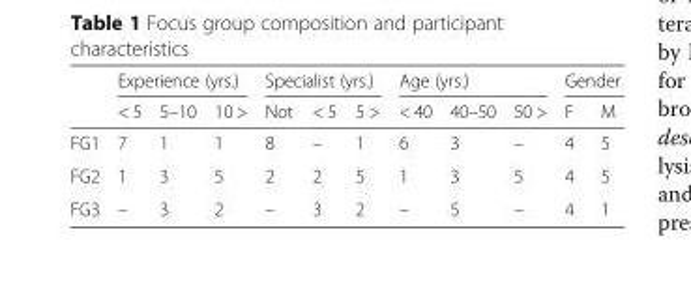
<table><thead><tr><td rowspan="2"></td><td colspan="3">Experience (yrs.)</td><td colspan="3">Specialist (yrs.)</td><td colspan="3">Age (yrs.)</td><td colspan="2">Gender</td></tr><tr><td>&lt; 5</td><td>5–10</td><td>10 &gt;</td><td>Not</td><td>&lt; 5</td><td>5 &gt;</td><td>&lt; 40</td><td>40–50</td><td>50 &gt;</td><td>F</td><td>M</td></tr></thead><tbody><tr><td>FG1</td><td>7</td><td>1</td><td>1</td><td>8</td><td>–</td><td>1</td><td>6</td><td>3</td><td>–</td><td>4</td><td>5</td></tr><tr><td>FG2</td><td>1</td><td>3</td><td>5</td><td>2</td><td>2</td><td>5</td><td>1</td><td>3</td><td>5</td><td>4</td><td>5</td></tr><tr><td>FG3</td><td>–</td><td>3</td><td>2</td><td>–</td><td>3</td><td>2</td><td>–</td><td>5</td><td>–</td><td>4</td><td>1</td></tr></tbody></table>